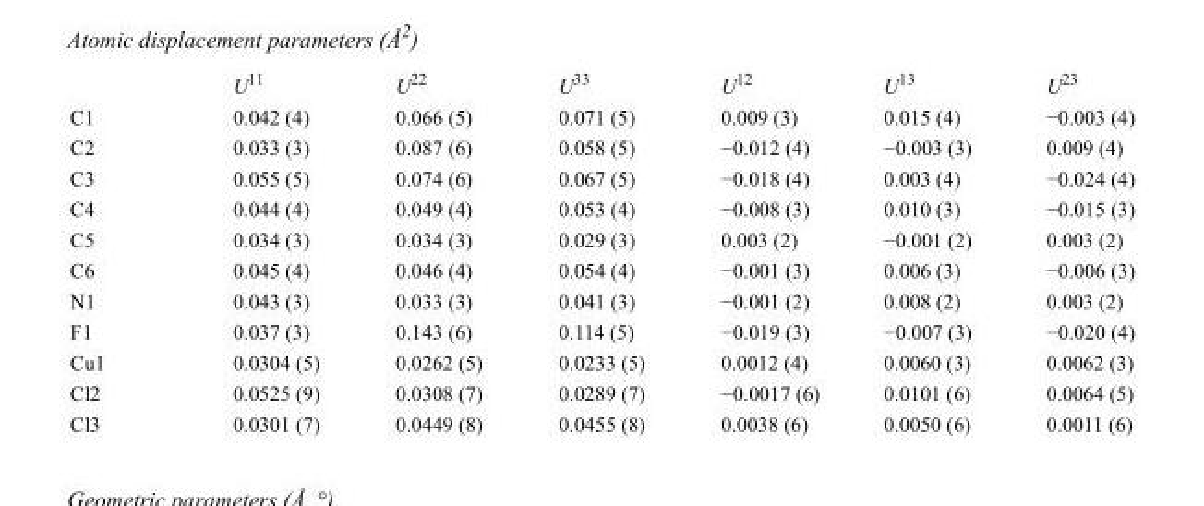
<table><thead><tr><td></td><td>U<sup>11</sup></td><td>U<sup>22</sup></td><td>U<sup>33</sup></td><td>U<sup>12</sup></td><td>U<sup>13</sup></td><td>U<sup>23</sup></td></tr></thead><tbody><tr><td>C1</td><td>0.042 (4)</td><td>0.066 (5)</td><td>0.071 (5)</td><td>0.009 (3)</td><td>0.015 (4)</td><td>−0.003 (4)</td></tr><tr><td>C2</td><td>0.033 (3)</td><td>0.087 (6)</td><td>0.058 (5)</td><td>−0.012 (4)</td><td>−0.003 (3)</td><td>0.009 (4)</td></tr><tr><td>C3</td><td>0.055 (5)</td><td>0.074 (6)</td><td>0.067 (5)</td><td>−0.018 (4)</td><td>0.003 (4)</td><td>−0.024 (4)</td></tr><tr><td>C4</td><td>0.044 (4)</td><td>0.049 (4)</td><td>0.053 (4)</td><td>−0.008 (3)</td><td>0.010 (3)</td><td>−0.015 (3)</td></tr><tr><td>C5</td><td>0.034 (3)</td><td>0.034 (3)</td><td>0.029 (3)</td><td>0.003 (2)</td><td>−0.001 (2)</td><td>0.003 (2)</td></tr><tr><td>C6</td><td>0.045 (4)</td><td>0.046 (4)</td><td>0.054 (4)</td><td>−0.001 (3)</td><td>0.006 (3)</td><td>−0.006 (3)</td></tr><tr><td>N1</td><td>0.043 (3)</td><td>0.033 (3)</td><td>0.041 (3)</td><td>−0.001 (2)</td><td>0.008 (2)</td><td>0.003 (2)</td></tr><tr><td>F1</td><td>0.037 (3)</td><td>0.143 (6)</td><td>0.114 (5)</td><td>−0.019 (3)</td><td>−0.007 (3)</td><td>−0.020 (4)</td></tr><tr><td>Cu1</td><td>0.0304 (5)</td><td>0.0262 (5)</td><td>0.0233 (5)</td><td>0.0012 (4)</td><td>0.0060 (3)</td><td>0.0062 (3)</td></tr><tr><td>Cl2</td><td>0.0525 (9)</td><td>0.0308 (7)</td><td>0.0289 (7)</td><td>−0.0017 (6)</td><td>0.0101 (6)</td><td>0.0064 (5)</td></tr><tr><td>Cl3</td><td>0.0301 (7)</td><td>0.0449 (8)</td><td>0.0455 (8)</td><td>0.0038 (6)</td><td>0.0050 (6)</td><td>0.0011 (6)</td></tr></tbody></table>